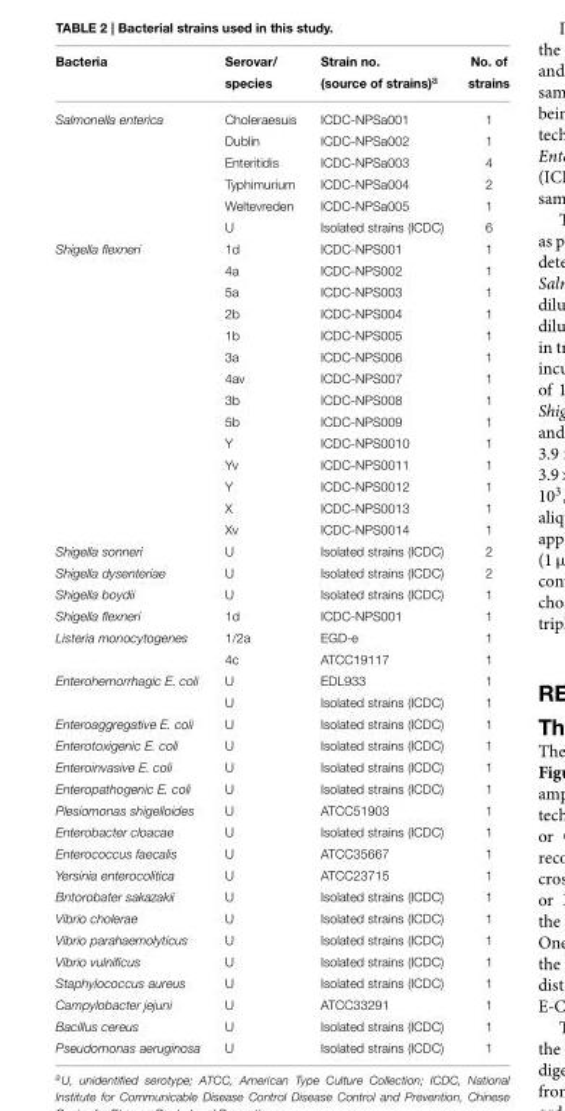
<table><thead><tr><td>Bacteria</td><td>Serovar/ species</td><td>Strain no. (source of strains)<sup>a</sup></td><td>No. of strains</td></tr></thead><tbody><tr><td rowspan="6">Salmonella enterica</td><td>Choleraesuis</td><td>ICDC-NPSa001</td><td>1</td></tr><tr><td>Dublin</td><td>ICDC-NPSa002</td><td>1</td></tr><tr><td>Enteritidis</td><td>ICDC-NPSa003</td><td>4</td></tr><tr><td>Typhimurium</td><td>ICDC-NPSa004</td><td>2</td></tr><tr><td>Weltevreden</td><td>ICDC-NPSa005</td><td>1</td></tr><tr><td>U</td><td>Isolated strains (ICDC)</td><td>6</td></tr><tr><td rowspan="14">Shigella flexneri</td><td>1d</td><td>ICDC-NPS001</td><td>1</td></tr><tr><td>4a</td><td>ICDC-NPS002</td><td>1</td></tr><tr><td>5a</td><td>ICDC-NPS003</td><td>1</td></tr><tr><td>2b</td><td>ICDC-NPS004</td><td>1</td></tr><tr><td>1b</td><td>ICDC-NPS005</td><td>1</td></tr><tr><td>3a</td><td>ICDC-NPS006</td><td>1</td></tr><tr><td>4av</td><td>ICDC-NPS007</td><td>1</td></tr><tr><td>3b</td><td>ICDC-NPS008</td><td>1</td></tr><tr><td>5b</td><td>ICDC-NPS009</td><td>1</td></tr><tr><td>Y</td><td>ICDC-NPS0010</td><td>1</td></tr><tr><td>Yv</td><td>ICDC-NPS0011</td><td>1</td></tr><tr><td>Y</td><td>ICDC-NPS0012</td><td>1</td></tr><tr><td>X</td><td>ICDC-NPS0013</td><td>1</td></tr><tr><td>Xv</td><td>ICDC-NPS0014</td><td>1</td></tr><tr><td>Shigella sonneri</td><td>U</td><td>Isolated strains (ICDC)</td><td>2</td></tr><tr><td>Shigella dysenteriae</td><td>U</td><td>Isolated strains (ICDC)</td><td>2</td></tr><tr><td>Shigella boydii</td><td>U</td><td>Isolated strains (ICDC)</td><td>1</td></tr><tr><td>Shigella flexneri</td><td>1d</td><td>ICDC-NPS001</td><td>1</td></tr><tr><td rowspan="2">Listeria monocytogenes</td><td>1/2a</td><td>EGD-e</td><td>1</td></tr><tr><td>4c</td><td>ATCC19117</td><td>1</td></tr><tr><td rowspan="2">Enterohemorrhagic E. coli</td><td>U</td><td>EDL933</td><td>1</td></tr><tr><td>U</td><td>Isolated strains (ICDC)</td><td>1</td></tr><tr><td>Enteroaggregative E. coli</td><td>U</td><td>Isolated strains (ICDC)</td><td>1</td></tr><tr><td>Enterotoxigenic E. coli</td><td>U</td><td>Isolated strains (ICDC)</td><td>1</td></tr><tr><td>Enteroinvasive E. coli</td><td>U</td><td>Isolated strains (ICDC)</td><td>1</td></tr><tr><td>Enteropathogenic E. coli</td><td>U</td><td>Isolated strains (ICDC)</td><td>1</td></tr><tr><td>Plesiomonas shigelloides</td><td>U</td><td>ATCC51903</td><td>1</td></tr><tr><td>Enterobacter cloacae</td><td>U</td><td>Isolated strains (ICDC)</td><td>1</td></tr><tr><td>Enterococcus faecalis</td><td>U</td><td>ATCC35667</td><td>1</td></tr><tr><td>Yersinia enterocolitica</td><td>U</td><td>ATCC23715</td><td>1</td></tr><tr><td>Bntorobater sakazakii</td><td>U</td><td>Isolated strains (ICDC)</td><td>1</td></tr><tr><td>Vibrio cholerae</td><td>U</td><td>Isolated strains (ICDC)</td><td>1</td></tr><tr><td>Vibrio parahaemolyticus</td><td>U</td><td>Isolated strains (ICDC)</td><td>1</td></tr><tr><td>Vibrio vulnificus</td><td>U</td><td>Isolated strains (ICDC)</td><td>1</td></tr><tr><td>Staphylococcus aureus</td><td>U</td><td>Isolated strains (ICDC)</td><td>1</td></tr><tr><td>Campylobacter jejuni</td><td>U</td><td>ATCC33291</td><td>1</td></tr><tr><td>Bacillus cereus</td><td>U</td><td>Isolated strains (ICDC)</td><td>1</td></tr><tr><td>Pseudomonas aeruginosa</td><td>U</td><td>Isolated strains (ICDC)</td><td>1</td></tr></tbody></table>